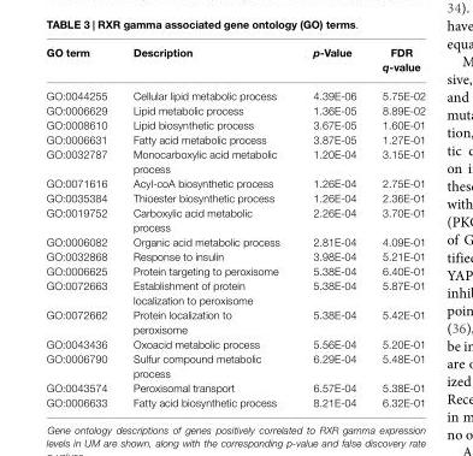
<table><thead><tr><td>GO term</td><td>Description</td><td>p-Value</td><td>FDR q-value</td></tr></thead><tbody><tr><td>GO:0044255</td><td>Cellular lipid metabolic process</td><td>4.39E-06</td><td>5.75E-02</td></tr><tr><td>GO:0006629</td><td>Lipid metabolic process</td><td>1.36E-05</td><td>8.89E-02</td></tr><tr><td>GO:0008610</td><td>Lipid biosynthetic process</td><td>3.67E-05</td><td>1.60E-01</td></tr><tr><td>GO:0006631</td><td>Fatty acid metabolic process</td><td>3.87E-05</td><td>1.27E-01</td></tr><tr><td>GO:0032787</td><td>Monocarboxylic acid metabolic process</td><td>1.20E-04</td><td>3.15E-01</td></tr><tr><td>GO:0071616</td><td>Acyl-coA biosynthetic process</td><td>1.26E-04</td><td>2.75E-01</td></tr><tr><td>GO:0035384</td><td>Thioester biosynthetic process</td><td>1.26E-04</td><td>2.36E-01</td></tr><tr><td>GO:0019752</td><td>Carboxylic acid metabolic process</td><td>2.26E-04</td><td>3.70E-01</td></tr><tr><td>GO:0006082</td><td>Organic acid metabolic process</td><td>2.81E-04</td><td>4.09E-01</td></tr><tr><td>GO:0032868</td><td>Response to insulin</td><td>3.98E-04</td><td>5.21E-01</td></tr><tr><td>GO:0006625</td><td>Protein targeting to peroxisome</td><td>5.38E-04</td><td>6.40E-01</td></tr><tr><td>GO:0072663</td><td>Establishment of protein localization to peroxisome</td><td>5.38E-04</td><td>5.87E-01</td></tr><tr><td>GO:0072662</td><td>Protein localization to peroxisome</td><td>5.38E-04</td><td>5.42E-01</td></tr><tr><td>GO:0043436</td><td>Oxoacid metabolic process</td><td>5.56E-04</td><td>5.20E-01</td></tr><tr><td>GO:0006790</td><td>Sulfur compound metabolic process</td><td>6.29E-04</td><td>5.48E-01</td></tr><tr><td>GO:0043574</td><td>Peroxisomal transport</td><td>6.57E-04</td><td>5.38E-01</td></tr><tr><td>GO:0006633</td><td>Fatty acid biosynthetic process</td><td>8.21E-04</td><td>6.32E-01</td></tr></tbody></table>